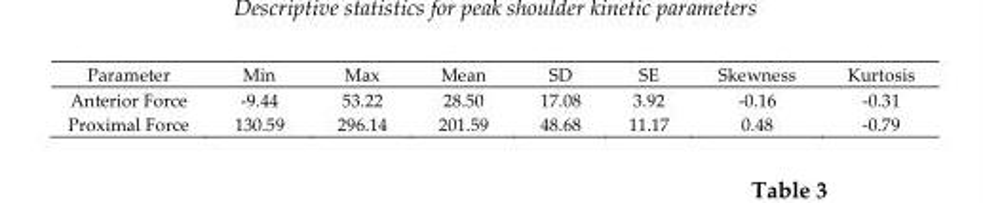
<table><thead><tr><td>Parameter</td><td>Min</td><td>Max</td><td>Mean</td><td>SD</td><td>SE</td><td>Skewness</td><td>Kurtosis</td></tr></thead><tbody><tr><td>Anterior Force</td><td>-9.44</td><td>53.22</td><td>28.50</td><td>17.08</td><td>3.92</td><td>-0.16</td><td>-0.31</td></tr><tr><td>Proximal Force</td><td>130.59</td><td>296.14</td><td>201.59</td><td>48.68</td><td>11.17</td><td>0.48</td><td>-0.79</td></tr></tbody></table>